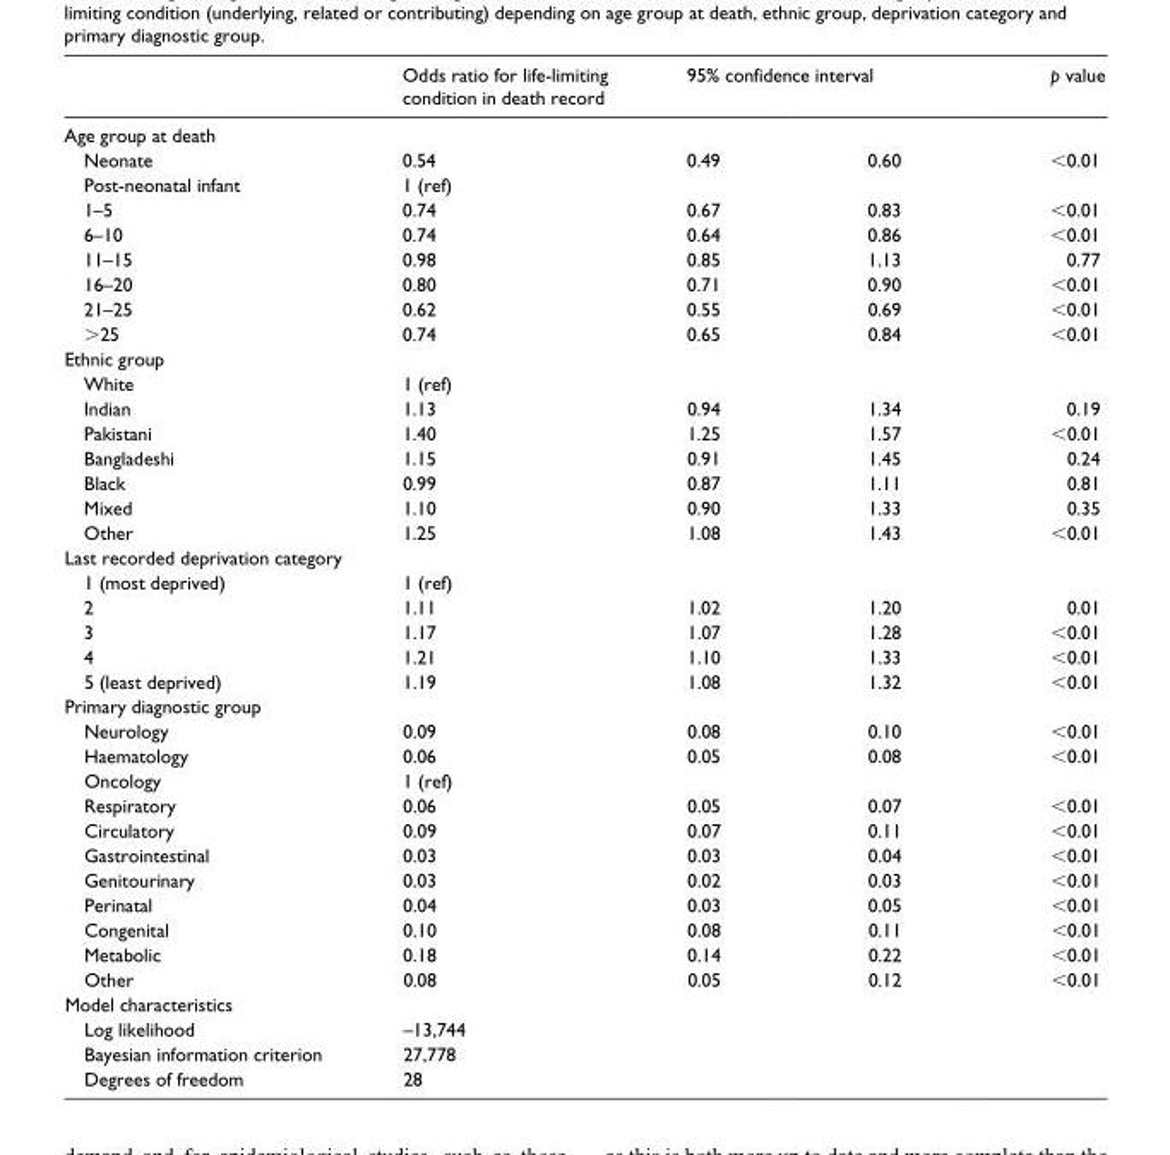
<table><thead><tr><td></td><td>Odds ratio for life-limiting condition in death record</td><td colspan="2">95% confidence interval</td><td>p value</td></tr><tr><td colspan="5">Age group at death</td></tr><tr><td>Neonate</td><td>0.54</td><td>0.49</td><td>0.60</td><td>&lt;0.01</td></tr></thead><tbody><tr><td>Post-neonatal infant</td><td>1 (ref)</td><td></td><td></td><td></td></tr><tr><td>1–5</td><td>0.74</td><td>0.67</td><td>0.83</td><td>&lt;0.01</td></tr><tr><td>6–10</td><td>0.74</td><td>0.64</td><td>0.86</td><td>&lt;0.01</td></tr><tr><td>11–15</td><td>0.98</td><td>0.85</td><td>1.13</td><td>0.77</td></tr><tr><td>16–20</td><td>0.80</td><td>0.71</td><td>0.90</td><td>&lt;0.01</td></tr><tr><td>21–25</td><td>0.62</td><td>0.55</td><td>0.69</td><td>&lt;0.01</td></tr><tr><td>&gt;25</td><td>0.74</td><td>0.65</td><td>0.84</td><td>&lt;0.01</td></tr><tr><td colspan="5">Ethnic group</td></tr><tr><td>White</td><td>1 (ref)</td><td></td><td></td><td></td></tr><tr><td>Indian</td><td>1.13</td><td>0.94</td><td>1.34</td><td>0.19</td></tr><tr><td>Pakistani</td><td>1.40</td><td>1.25</td><td>1.57</td><td>&lt;0.01</td></tr><tr><td>Bangladeshi</td><td>1.15</td><td>0.91</td><td>1.45</td><td>0.24</td></tr><tr><td>Black</td><td>0.99</td><td>0.87</td><td>1.11</td><td>0.81</td></tr><tr><td>Mixed</td><td>1.10</td><td>0.90</td><td>1.33</td><td>0.35</td></tr><tr><td>Other</td><td>1.25</td><td>1.08</td><td>1.43</td><td>&lt;0.01</td></tr><tr><td colspan="5">Last recorded deprivation category</td></tr><tr><td>1 (most deprived)</td><td>1 (ref)</td><td></td><td></td><td></td></tr><tr><td>2</td><td>1.11</td><td>1.02</td><td>1.20</td><td>0.01</td></tr><tr><td>3</td><td>1.17</td><td>1.07</td><td>1.28</td><td>&lt;0.01</td></tr><tr><td>4</td><td>1.21</td><td>1.10</td><td>1.33</td><td>&lt;0.01</td></tr><tr><td>5 (least deprived)</td><td>1.19</td><td>1.08</td><td>1.32</td><td>&lt;0.01</td></tr><tr><td colspan="5">Primary diagnostic group</td></tr><tr><td>Neurology</td><td>0.09</td><td>0.08</td><td>0.10</td><td>&lt;0.01</td></tr><tr><td>Haematology</td><td>0.06</td><td>0.05</td><td>0.08</td><td>&lt;0.01</td></tr><tr><td>Oncology</td><td>1 (ref)</td><td></td><td></td><td></td></tr><tr><td>Respiratory</td><td>0.06</td><td>0.05</td><td>0.07</td><td>&lt;0.01</td></tr><tr><td>Circulatory</td><td>0.09</td><td>0.07</td><td>0.11</td><td>&lt;0.01</td></tr><tr><td>Gastrointestinal</td><td>0.03</td><td>0.03</td><td>0.04</td><td>&lt;0.01</td></tr><tr><td>Genitourinary</td><td>0.03</td><td>0.02</td><td>0.03</td><td>&lt;0.01</td></tr><tr><td>Perinatal</td><td>0.04</td><td>0.03</td><td>0.05</td><td>&lt;0.01</td></tr><tr><td>Congenital</td><td>0.10</td><td>0.08</td><td>0.11</td><td>&lt;0.01</td></tr><tr><td>Metabolic</td><td>0.18</td><td>0.14</td><td>0.22</td><td>&lt;0.01</td></tr><tr><td>Other</td><td>0.08</td><td>0.05</td><td>0.12</td><td>&lt;0.01</td></tr><tr><td colspan="5">Model characteristics</td></tr><tr><td>Log likelihood</td><td>–13,744</td><td></td><td></td><td></td></tr><tr><td>Bayesian information criterion</td><td>27,778</td><td></td><td></td><td></td></tr><tr><td>Degrees of freedom</td><td>28</td><td></td><td></td><td></td></tr></tbody></table>